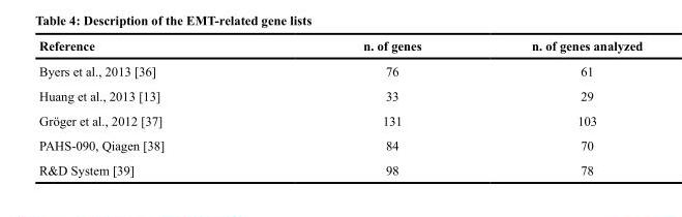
<table><thead><tr><td>Reference</td><td>n. of genes</td><td>n. of genes analyzed</td></tr></thead><tbody><tr><td>Byers et al., 2013 [36]</td><td>76</td><td>61</td></tr><tr><td>Huang et al., 2013 [13]</td><td>33</td><td>29</td></tr><tr><td>Gröger et al., 2012 [37]</td><td>131</td><td>103</td></tr><tr><td>PAHS-090, Qiagen [38]</td><td>84</td><td>70</td></tr><tr><td>R&amp;D System [39]</td><td>98</td><td>78</td></tr></tbody></table>